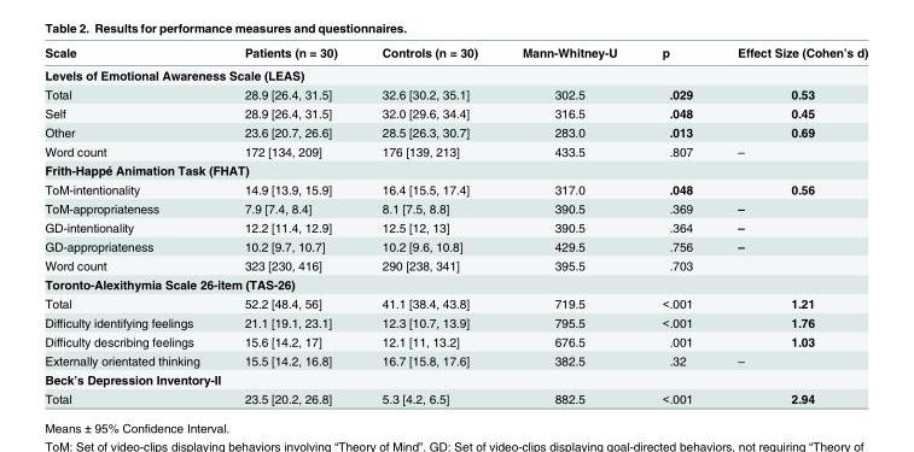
<table><thead><tr><td>Scale</td><td>Patients (n = 30)</td><td>Controls (n = 30)</td><td>Mann-Whitney-U</td><td>p</td><td>Effect Size (Cohen’s d)</td></tr></thead><tbody><tr><td colspan="6">Levels of Emotional Awareness Scale (LEAS)</td></tr><tr><td>Total</td><td>28.9 [26.4, 31.5]</td><td>32.6 [30.2, 35.1]</td><td>302.5</td><td>.029</td><td>0.53</td></tr><tr><td>Self</td><td>28.9 [26.4, 31.5]</td><td>32.0 [29.6, 34.4]</td><td>316.5</td><td>.048</td><td>0.45</td></tr><tr><td>Other</td><td>23.6 [20.7, 26.6]</td><td>28.5 [26.3, 30.7]</td><td>283.0</td><td>.013</td><td>0.69</td></tr><tr><td>Word count</td><td>172 [134, 209]</td><td>176 [139, 213]</td><td>433.5</td><td>.807</td><td>–</td></tr><tr><td colspan="6">Frith-Happé Animation Task (FHAT)</td></tr><tr><td>ToM-intentionality</td><td>14.9 [13.9, 15.9]</td><td>16.4 [15.5, 17.4]</td><td>317.0</td><td>.048</td><td>0.56</td></tr><tr><td>ToM-appropriateness</td><td>7.9 [7.4, 8.4]</td><td>8.1 [7.5, 8.8]</td><td>390.5</td><td>.369</td><td>–</td></tr><tr><td>GD-intentionality</td><td>12.2 [11.4, 12.9]</td><td>12.5 [12, 13]</td><td>390.5</td><td>.364</td><td>–</td></tr><tr><td>GD-appropriateness</td><td>10.2 [9.7, 10.7]</td><td>10.2 [9.6, 10.8]</td><td>429.5</td><td>.756</td><td>–</td></tr><tr><td>Word count</td><td>323 [230, 416]</td><td>290 [238, 341]</td><td>395.5</td><td>.703</td><td></td></tr><tr><td colspan="6">Toronto-Alexithymia Scale 26-item (TAS-26)</td></tr><tr><td>Total</td><td>52.2 [48.4, 56]</td><td>41.1 [38.4, 43.8]</td><td>719.5</td><td>&lt;.001</td><td>1.21</td></tr><tr><td>Difficulty identifying feelings</td><td>21.1 [19.1, 23.1]</td><td>12.3 [10.7, 13.9]</td><td>795.5</td><td>&lt;.001</td><td>1.76</td></tr><tr><td>Difficulty describing feelings</td><td>15.6 [14.2, 17]</td><td>12.1 [11, 13.2]</td><td>676.5</td><td>.001</td><td>1.03</td></tr><tr><td>Externally orientated thinking</td><td>15.5 [14.2, 16.8]</td><td>16.7 [15.8, 17.6]</td><td>382.5</td><td>.32</td><td>–</td></tr><tr><td colspan="6">Beck’s Depression Inventory-II</td></tr><tr><td>Total</td><td>23.5 [20.2, 26.8]</td><td>5.3 [4.2, 6.5]</td><td>882.5</td><td>&lt;.001</td><td>2.94</td></tr></tbody></table>